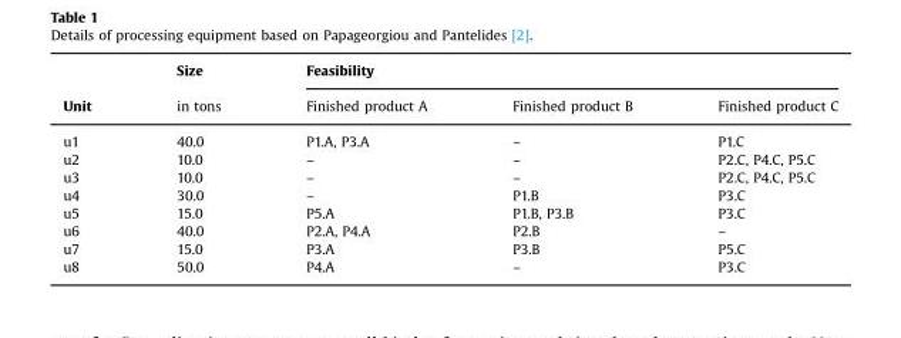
<table><thead><tr><td rowspan="2">Unit</td><td rowspan="2">Size in tons</td><td colspan="3">Feasibility</td></tr><tr><td>Finished product A</td><td>Finished product B</td><td>Finished product C</td></tr></thead><tbody><tr><td>u1</td><td>40.0</td><td>P1.A, P3.A</td><td>–</td><td>P1.C</td></tr><tr><td>u2</td><td>10.0</td><td>–</td><td>–</td><td>P2.C, P4.C, P5.C</td></tr><tr><td>u3</td><td>10.0</td><td>–</td><td>–</td><td>P2.C, P4.C, P5.C</td></tr><tr><td>u4</td><td>30.0</td><td>–</td><td>P1.B</td><td>P3.C</td></tr><tr><td>u5</td><td>15.0</td><td>P5.A</td><td>P1.B, P3.B</td><td>P3.C</td></tr><tr><td>u6</td><td>40.0</td><td>P2.A, P4.A</td><td>P2.B</td><td>–</td></tr><tr><td>u7</td><td>15.0</td><td>P3.A</td><td>P3.B</td><td>P5.C</td></tr><tr><td>u8</td><td>50.0</td><td>P4.A</td><td>–</td><td>P3.C</td></tr></tbody></table>